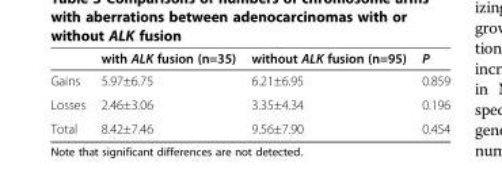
<table><thead><tr><td></td><td>with ALK fusion (n=35)</td><td>without ALK fusion (n=95)</td><td>P</td></tr></thead><tbody><tr><td>Gains</td><td>5.97±6.75</td><td>6.21±6.95</td><td>0.859</td></tr><tr><td>Losses</td><td>2.46±3.06</td><td>3.35±4.34</td><td>0.196</td></tr><tr><td>Total</td><td>8.42±7.46</td><td>9.56±7.90</td><td>0.454</td></tr></tbody></table>